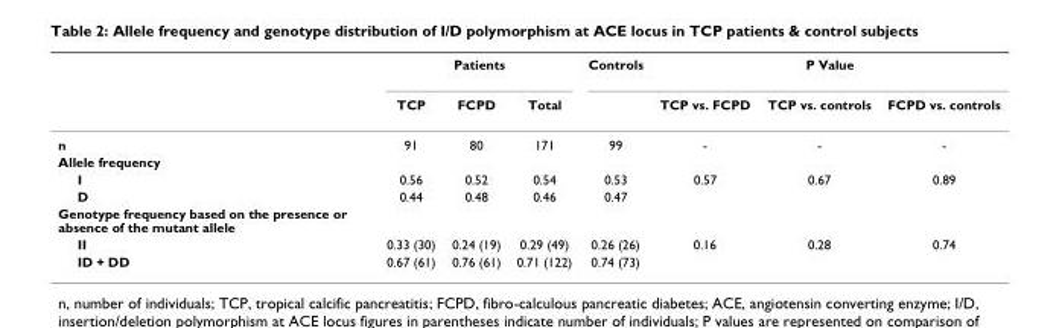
<table><thead><tr><td rowspan="2"></td><td colspan="3">Patients</td><td rowspan="2">Controls</td><td colspan="3">P Value</td></tr><tr><td>TCP</td><td>FCPD</td><td>Total</td><td>TCP vs. FCPD</td><td>TCP vs. controls</td><td>FCPD vs. controls</td></tr></thead><tbody><tr><td>n</td><td>91</td><td>80</td><td>171</td><td>99</td><td>-</td><td>-</td><td>-</td></tr><tr><td colspan="8">Allele frequency</td></tr><tr><td>I</td><td>0.56</td><td>0.52</td><td>0.54</td><td>0.53</td><td>0.57</td><td>0.67</td><td>0.89</td></tr><tr><td>D</td><td>0.44</td><td>0.48</td><td>0.46</td><td>0.47</td><td></td><td></td><td></td></tr><tr><td colspan="8">Genotype frequency based on the presence or absence of the mutant allele</td></tr><tr><td>II</td><td>0.33 (30)</td><td>0.24 (19)</td><td>0.29 (49)</td><td>0.26 (26)</td><td>0.16</td><td>0.28</td><td>0.74</td></tr><tr><td>ID + DD</td><td>0.67 (61)</td><td>0.76 (61)</td><td>0.71 (122)</td><td>0.74 (73)</td><td></td><td></td><td></td></tr></tbody></table>